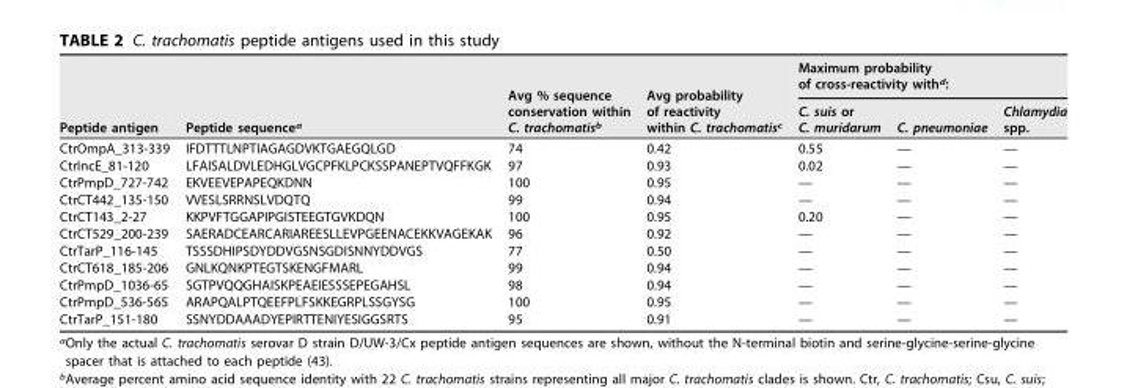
<table><thead><tr><td rowspan="2">Peptide antigen</td><td rowspan="2">Peptide sequence<sup>a</sup></td><td rowspan="2">Avg % sequence conservation within C. trachomatis<sup>b</sup></td><td rowspan="2">Avg probability of reactivity within C. trachomatis<sup>c</sup></td><td colspan="3">Maximum probability of cross-reactivity with<sup>d</sup>:</td></tr><tr><td>C. suis or C. muridarum</td><td>C. pneumoniae</td><td>Chlamydia spp.</td></tr></thead><tbody><tr><td>CtrOmpA_313-339</td><td>IFDTTTLNPTIAGAGDVKTGAEGQLGD</td><td>74</td><td>0.42</td><td>0.55</td><td>—</td><td>—</td></tr><tr><td>CtrIncE_81-120</td><td>LFAISALDVLEDHGLVGCPFKLPCKSSPANEPTVQFFKGK</td><td>97</td><td>0.93</td><td>0.02</td><td>—</td><td>—</td></tr><tr><td>CtrPmpD_727-742</td><td>EKVEEVEPAPEQKDNN</td><td>100</td><td>0.95</td><td>—</td><td>—</td><td>—</td></tr><tr><td>CtrCT442_135-150</td><td>VVESLSRRNSLVDQTQ</td><td>99</td><td>0.94</td><td>—</td><td>—</td><td>—</td></tr><tr><td>CtrCT143_2-27</td><td>KKPVFTGGAPIPGISTEEGTGVKDQN</td><td>100</td><td>0.95</td><td>0.20</td><td>—</td><td>—</td></tr><tr><td>CtrCT529_200-239</td><td>SAERADCEARCARIAREESLLEVPGEENACEKKVAGEKAK</td><td>96</td><td>0.92</td><td>—</td><td>—</td><td>—</td></tr><tr><td>CtrTarP_116-145</td><td>TSSSDHIPSDYDDVGSNSGDISNNYDDVGS</td><td>77</td><td>0.50</td><td>—</td><td>—</td><td>—</td></tr><tr><td>CtrCT618_185-206</td><td>GNLKQNKPTEGTSKENGFMARL</td><td>99</td><td>0.94</td><td>—</td><td>—</td><td>—</td></tr><tr><td>CtrPmpD_1036-65</td><td>SGTPVQQGHAISKPEAEIESSSEPEGAHSL</td><td>98</td><td>0.94</td><td>—</td><td>—</td><td>—</td></tr><tr><td>CtrPmpD_536-565</td><td>ARAPQALPTQEEFPLFSKKEGRPLSSGYSG</td><td>100</td><td>0.95</td><td>—</td><td>—</td><td>—</td></tr><tr><td>CtrTarP_151-180</td><td>SSNYDDAAADYEPIRTTENIYESIGGSRTS</td><td>95</td><td>0.91</td><td>—</td><td>—</td><td>—</td></tr></tbody></table>